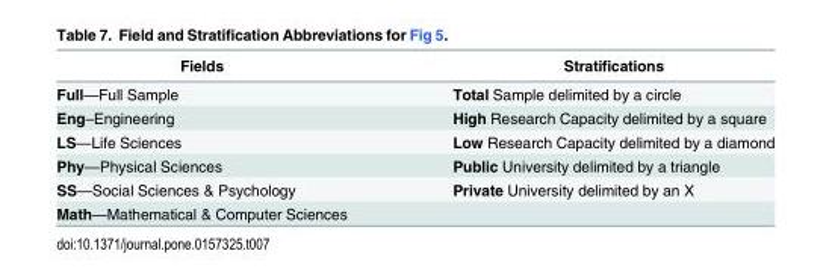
<table><thead><tr><td>Fields</td><td>Stratifications</td></tr></thead><tbody><tr><td>Full—Full Sample</td><td>Total Sample delimited by a circle</td></tr><tr><td>Eng–Engineering</td><td>High Research Capacity delimited by a square</td></tr><tr><td>LS—Life Sciences</td><td>Low Research Capacity delimited by a diamond</td></tr><tr><td>Phy—Physical Sciences</td><td>Public University delimited by a triangle</td></tr><tr><td>SS—Social Sciences &amp; Psychology</td><td>Private University delimited by an X</td></tr><tr><td>Math—Mathematical &amp; Computer Sciences</td><td></td></tr></tbody></table>